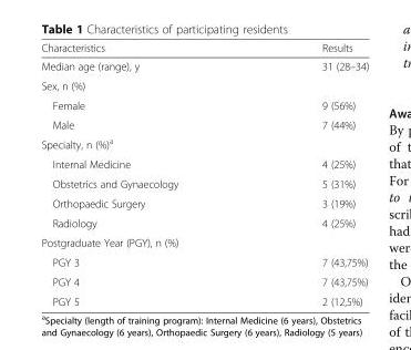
<table><thead><tr><td>Characteristics</td><td>Results</td></tr></thead><tbody><tr><td>Median age (range), y</td><td>31 (28–34)</td></tr><tr><td colspan="2">Sex, n (%)</td></tr><tr><td>Female</td><td>9 (56%)</td></tr><tr><td>Male</td><td>7 (44%)</td></tr><tr><td colspan="2">Specialty, n (%)<sup>a</sup></td></tr><tr><td>Internal Medicine</td><td>4 (25%)</td></tr><tr><td>Obstetrics and Gynaecology</td><td>5 (31%)</td></tr><tr><td>Orthopaedic Surgery</td><td>3 (19%)</td></tr><tr><td>Radiology</td><td>4 (25%)</td></tr><tr><td colspan="2">Postgraduate Year (PGY), n (%)</td></tr><tr><td>PGY 3</td><td>7 (43,75%)</td></tr><tr><td>PGY 4</td><td>7 (43,75%)</td></tr><tr><td>PGY 5</td><td>2 (12,5%)</td></tr></tbody></table>